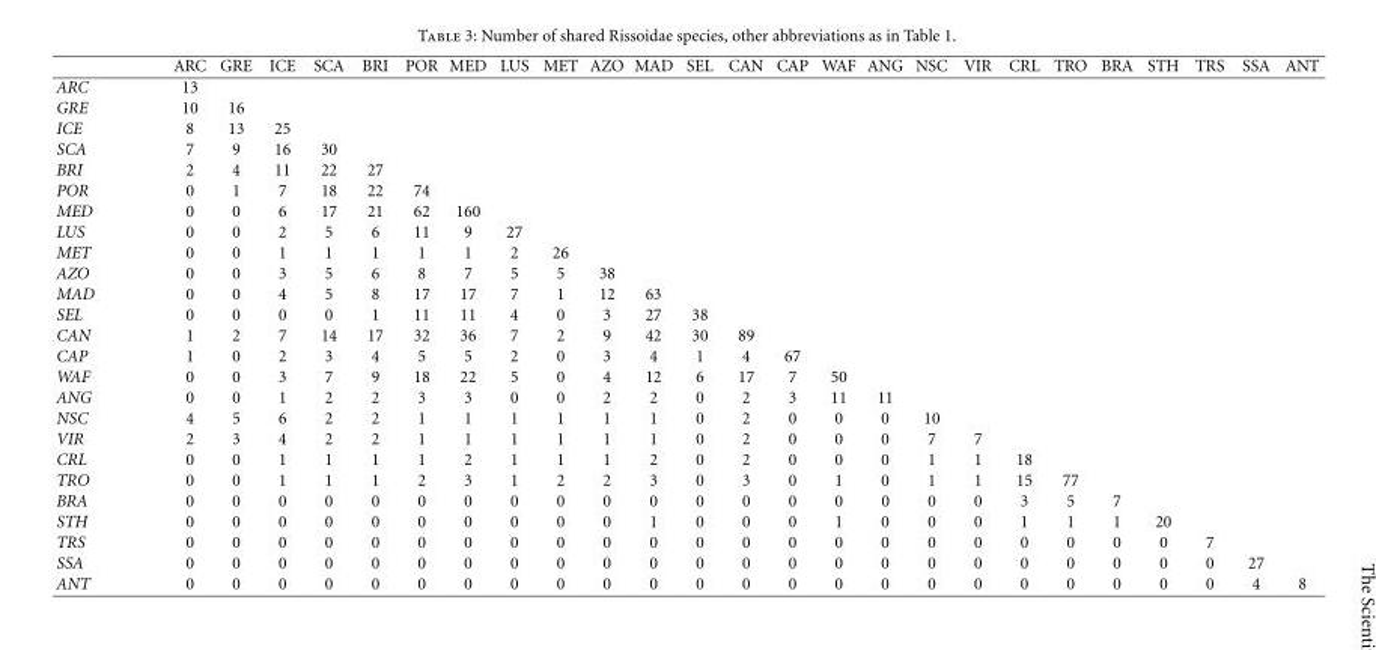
<table><thead><tr><td></td><td>ARC</td><td>GRE</td><td>ICE</td><td>SCA</td><td>BRI</td><td>POR</td><td>MED</td><td>LUS</td><td>MET</td><td>AZO</td><td>MAD</td><td>SEL</td><td>CAN</td><td>CAP</td><td>WAF</td><td>ANG</td><td>NSC</td><td>VIR</td><td>CRL</td><td>TRO</td><td>BRA</td><td>STH</td><td>TRS</td><td>SSA</td><td>ANT</td></tr></thead><tbody><tr><td>ARC</td><td>13</td><td></td><td></td><td></td><td></td><td></td><td></td><td></td><td></td><td></td><td></td><td></td><td></td><td></td><td></td><td></td><td></td><td></td><td></td><td></td><td></td><td></td><td></td><td></td><td></td></tr><tr><td>GRE</td><td>10</td><td>16</td><td></td><td></td><td></td><td></td><td></td><td></td><td></td><td></td><td></td><td></td><td></td><td></td><td></td><td></td><td></td><td></td><td></td><td></td><td></td><td></td><td></td><td></td><td></td></tr><tr><td>ICE</td><td>8</td><td>13</td><td>25</td><td></td><td></td><td></td><td></td><td></td><td></td><td></td><td></td><td></td><td></td><td></td><td></td><td></td><td></td><td></td><td></td><td></td><td></td><td></td><td></td><td></td><td></td></tr><tr><td>SCA</td><td>7</td><td>9</td><td>16</td><td>30</td><td></td><td></td><td></td><td></td><td></td><td></td><td></td><td></td><td></td><td></td><td></td><td></td><td></td><td></td><td></td><td></td><td></td><td></td><td></td><td></td><td></td></tr><tr><td>BRI</td><td>2</td><td>4</td><td>11</td><td>22</td><td>27</td><td></td><td></td><td></td><td></td><td></td><td></td><td></td><td></td><td></td><td></td><td></td><td></td><td></td><td></td><td></td><td></td><td></td><td></td><td></td><td></td></tr><tr><td>POR</td><td>0</td><td>1</td><td>7</td><td>18</td><td>22</td><td>74</td><td></td><td></td><td></td><td></td><td></td><td></td><td></td><td></td><td></td><td></td><td></td><td></td><td></td><td></td><td></td><td></td><td></td><td></td><td></td></tr><tr><td>MED</td><td>0</td><td>0</td><td>6</td><td>17</td><td>21</td><td>62</td><td>160</td><td></td><td></td><td></td><td></td><td></td><td></td><td></td><td></td><td></td><td></td><td></td><td></td><td></td><td></td><td></td><td></td><td></td><td></td></tr><tr><td>LUS</td><td>0</td><td>0</td><td>2</td><td>5</td><td>6</td><td>11</td><td>9</td><td>27</td><td></td><td></td><td></td><td></td><td></td><td></td><td></td><td></td><td></td><td></td><td></td><td></td><td></td><td></td><td></td><td></td><td></td></tr><tr><td>MET</td><td>0</td><td>0</td><td>1</td><td>1</td><td>1</td><td>1</td><td>1</td><td>2</td><td>26</td><td></td><td></td><td></td><td></td><td></td><td></td><td></td><td></td><td></td><td></td><td></td><td></td><td></td><td></td><td></td><td></td></tr><tr><td>AZO</td><td>0</td><td>0</td><td>3</td><td>5</td><td>6</td><td>8</td><td>7</td><td>5</td><td>5</td><td>38</td><td></td><td></td><td></td><td></td><td></td><td></td><td></td><td></td><td></td><td></td><td></td><td></td><td></td><td></td><td></td></tr><tr><td>MAD</td><td>0</td><td>0</td><td>4</td><td>5</td><td>8</td><td>17</td><td>17</td><td>7</td><td>1</td><td>12</td><td>63</td><td></td><td></td><td></td><td></td><td></td><td></td><td></td><td></td><td></td><td></td><td></td><td></td><td></td><td></td></tr><tr><td>SEL</td><td>0</td><td>0</td><td>0</td><td>0</td><td>1</td><td>11</td><td>11</td><td>4</td><td>0</td><td>3</td><td>27</td><td>38</td><td></td><td></td><td></td><td></td><td></td><td></td><td></td><td></td><td></td><td></td><td></td><td></td><td></td></tr><tr><td>CAN</td><td>1</td><td>2</td><td>7</td><td>14</td><td>17</td><td>32</td><td>36</td><td>7</td><td>2</td><td>9</td><td>42</td><td>30</td><td>89</td><td></td><td></td><td></td><td></td><td></td><td></td><td></td><td></td><td></td><td></td><td></td><td></td></tr><tr><td>CAP</td><td>1</td><td>0</td><td>2</td><td>3</td><td>4</td><td>5</td><td>5</td><td>2</td><td>0</td><td>3</td><td>4</td><td>1</td><td>4</td><td>67</td><td></td><td></td><td></td><td></td><td></td><td></td><td></td><td></td><td></td><td></td><td></td></tr><tr><td>WAF</td><td>0</td><td>0</td><td>3</td><td>7</td><td>9</td><td>18</td><td>22</td><td>5</td><td>0</td><td>4</td><td>12</td><td>6</td><td>17</td><td>7</td><td>50</td><td></td><td></td><td></td><td></td><td></td><td></td><td></td><td></td><td></td><td></td></tr><tr><td>ANG</td><td>0</td><td>0</td><td>1</td><td>2</td><td>2</td><td>3</td><td>3</td><td>0</td><td>0</td><td>2</td><td>2</td><td>0</td><td>2</td><td>3</td><td>11</td><td>11</td><td></td><td></td><td></td><td></td><td></td><td></td><td></td><td></td><td></td></tr><tr><td>NSC</td><td>4</td><td>5</td><td>6</td><td>2</td><td>2</td><td>1</td><td>1</td><td>1</td><td>1</td><td>1</td><td>1</td><td>0</td><td>2</td><td>0</td><td>0</td><td>0</td><td>10</td><td></td><td></td><td></td><td></td><td></td><td></td><td></td><td></td></tr><tr><td>VIR</td><td>2</td><td>3</td><td>4</td><td>2</td><td>2</td><td>1</td><td>1</td><td>1</td><td>1</td><td>1</td><td>1</td><td>0</td><td>2</td><td>0</td><td>0</td><td>0</td><td>7</td><td>7</td><td></td><td></td><td></td><td></td><td></td><td></td><td></td></tr><tr><td>CRL</td><td>0</td><td>0</td><td>1</td><td>1</td><td>1</td><td>1</td><td>2</td><td>1</td><td>1</td><td>1</td><td>2</td><td>0</td><td>2</td><td>0</td><td>0</td><td>0</td><td>1</td><td>1</td><td>18</td><td></td><td></td><td></td><td></td><td></td><td></td></tr><tr><td>TRO</td><td>0</td><td>0</td><td>1</td><td>1</td><td>1</td><td>2</td><td>3</td><td>1</td><td>2</td><td>2</td><td>3</td><td>0</td><td>3</td><td>0</td><td>1</td><td>0</td><td>1</td><td>1</td><td>15</td><td>77</td><td></td><td></td><td></td><td></td><td></td></tr><tr><td>BRA</td><td>0</td><td>0</td><td>0</td><td>0</td><td>0</td><td>0</td><td>0</td><td>0</td><td>0</td><td>0</td><td>0</td><td>0</td><td>0</td><td>0</td><td>0</td><td>0</td><td>0</td><td>0</td><td>3</td><td>5</td><td>7</td><td></td><td></td><td></td><td></td></tr><tr><td>STH</td><td>0</td><td>0</td><td>0</td><td>0</td><td>0</td><td>0</td><td>0</td><td>0</td><td>0</td><td>0</td><td>1</td><td>0</td><td>0</td><td>0</td><td>1</td><td>0</td><td>0</td><td>0</td><td>1</td><td>1</td><td>1</td><td>20</td><td></td><td></td><td></td></tr><tr><td>TRS</td><td>0</td><td>0</td><td>0</td><td>0</td><td>0</td><td>0</td><td>0</td><td>0</td><td>0</td><td>0</td><td>0</td><td>0</td><td>0</td><td>0</td><td>0</td><td>0</td><td>0</td><td>0</td><td>0</td><td>0</td><td>0</td><td>0</td><td>7</td><td></td><td></td></tr><tr><td>SSA</td><td>0</td><td>0</td><td>0</td><td>0</td><td>0</td><td>0</td><td>0</td><td>0</td><td>0</td><td>0</td><td>0</td><td>0</td><td>0</td><td>0</td><td>0</td><td>0</td><td>0</td><td>0</td><td>0</td><td>0</td><td>0</td><td>0</td><td>0</td><td>27</td><td></td></tr><tr><td>ANT</td><td>0</td><td>0</td><td>0</td><td>0</td><td>0</td><td>0</td><td>0</td><td>0</td><td>0</td><td>0</td><td>0</td><td>0</td><td>0</td><td>0</td><td>0</td><td>0</td><td>0</td><td>0</td><td>0</td><td>0</td><td>0</td><td>0</td><td>0</td><td>4</td><td>8</td></tr></tbody></table>